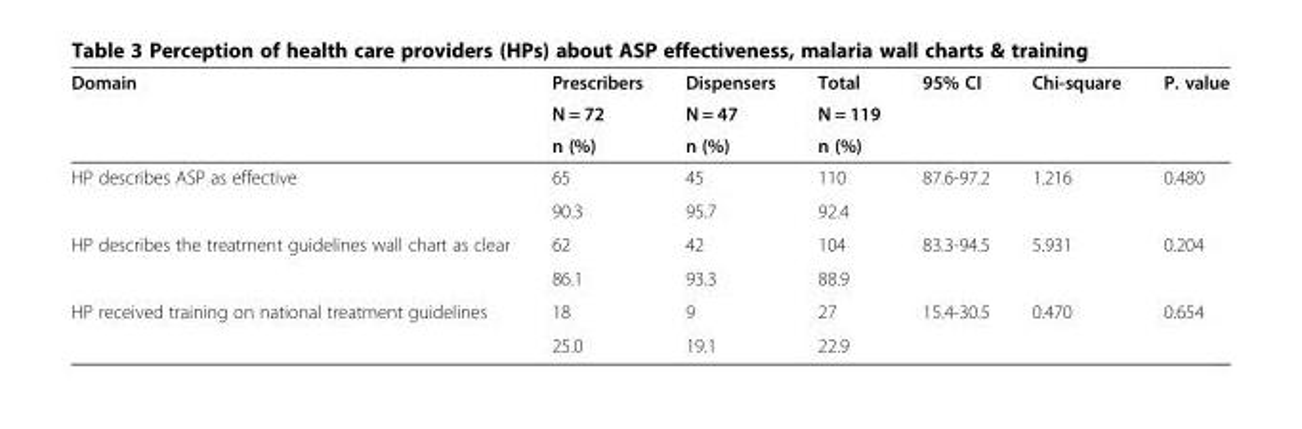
<table><thead><tr><td rowspan="3">Domain</td><td rowspan="3">Prescribers N = 72 n (%)</td><td rowspan="3">Dispensers N = 47 n (%)</td><td rowspan="3">Total N = 119 n (%)</td><td rowspan="3">95% CI</td><td rowspan="3">Chi-square</td><td rowspan="3">P. value</td></tr><tr></tr><tr></tr></thead><tbody><tr><td rowspan="2">HP describes ASP as effective</td><td>65</td><td>45</td><td>110</td><td rowspan="2">87.6-97.2</td><td rowspan="2">1.216</td><td rowspan="2">0.480</td></tr><tr><td>90.3</td><td>95.7</td><td>92.4</td></tr><tr><td rowspan="2">HP describes the treatment guidelines wall chart as clear</td><td>62</td><td>42</td><td>104</td><td rowspan="2">83.3-94.5</td><td rowspan="2">5.931</td><td rowspan="2">0.204</td></tr><tr><td>86.1</td><td>93.3</td><td>88.9</td></tr><tr><td rowspan="2">HP received training on national treatment guidelines</td><td>18</td><td>9</td><td>27</td><td rowspan="2">15.4-30.5</td><td rowspan="2">0.470</td><td rowspan="2">0.654</td></tr><tr><td>25.0</td><td>19.1</td><td>22.9</td></tr></tbody></table>